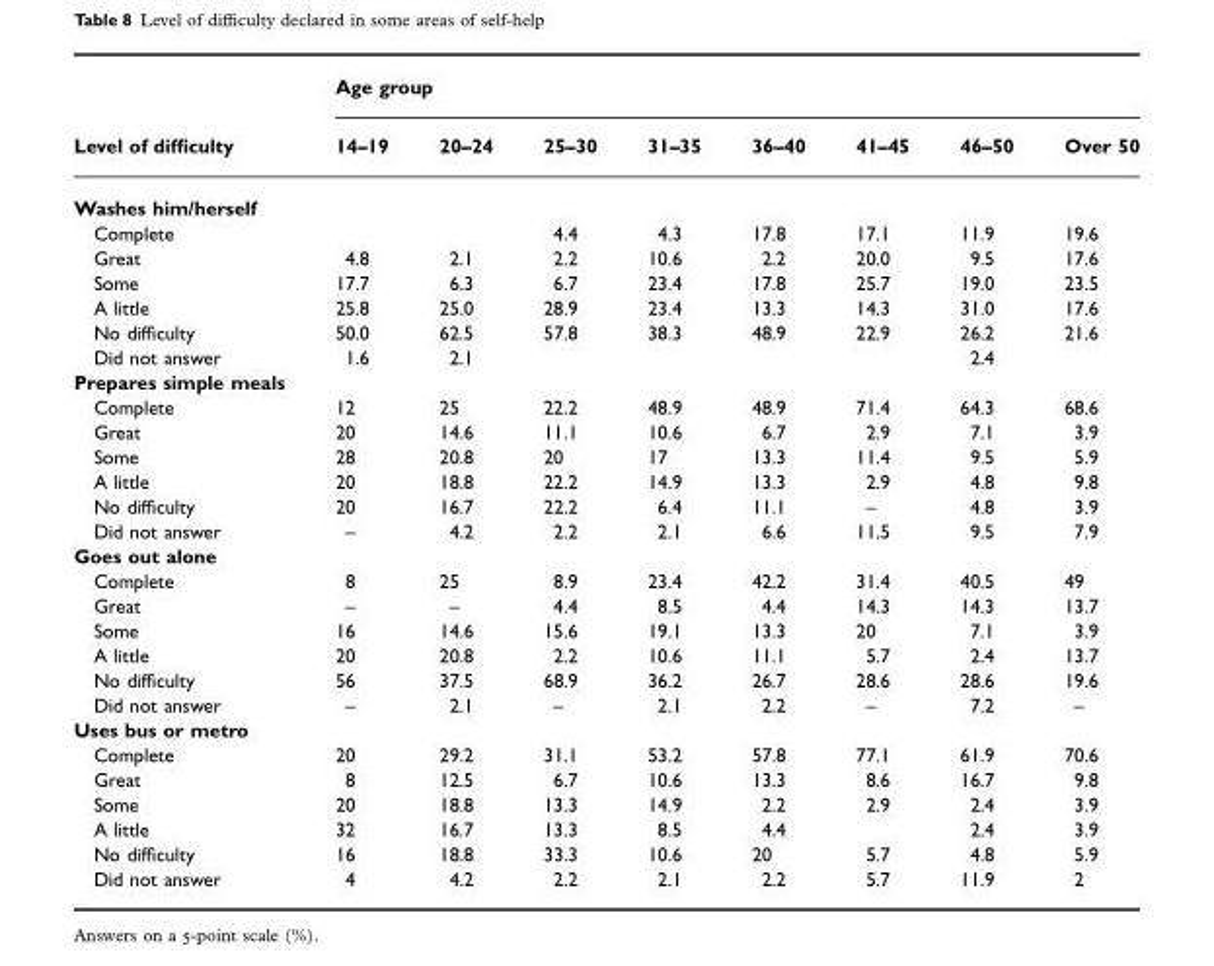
<table><thead><tr><td rowspan="2">Level of difficulty</td><td colspan="8">Age group</td></tr><tr><td>14–19</td><td>20–24</td><td>25–30</td><td>31–35</td><td>36–40</td><td>41–45</td><td>46–50</td><td>Over 50</td></tr></thead><tbody><tr><td colspan="9">Washes him/herself</td></tr><tr><td>Complete</td><td></td><td></td><td>4.4</td><td>4.3</td><td>17.8</td><td>17.1</td><td>11.9</td><td>19.6</td></tr><tr><td>Great</td><td>4.8</td><td>2.1</td><td>2.2</td><td>10.6</td><td>2.2</td><td>20.0</td><td>9.5</td><td>17.6</td></tr><tr><td>Some</td><td>17.7</td><td>6.3</td><td>6.7</td><td>23.4</td><td>17.8</td><td>25.7</td><td>19.0</td><td>23.5</td></tr><tr><td>A little</td><td>25.8</td><td>25.0</td><td>28.9</td><td>23.4</td><td>13.3</td><td>14.3</td><td>31.0</td><td>17.6</td></tr><tr><td>No difficulty</td><td>50.0</td><td>62.5</td><td>57.8</td><td>38.3</td><td>48.9</td><td>22.9</td><td>26.2</td><td>21.6</td></tr><tr><td>Did not answer</td><td>1.6</td><td>2.1</td><td></td><td></td><td></td><td></td><td>2.4</td><td></td></tr><tr><td colspan="9">Prepares simple meals</td></tr><tr><td>Complete</td><td>12</td><td>25</td><td>22.2</td><td>48.9</td><td>48.9</td><td>71.4</td><td>64.3</td><td>68.6</td></tr><tr><td>Great</td><td>20</td><td>14.6</td><td>11.1</td><td>10.6</td><td>6.7</td><td>2.9</td><td>7.1</td><td>3.9</td></tr><tr><td>Some</td><td>28</td><td>20.8</td><td>20</td><td>17</td><td>13.3</td><td>11.4</td><td>9.5</td><td>5.9</td></tr><tr><td>A little</td><td>20</td><td>18.8</td><td>22.2</td><td>14.9</td><td>13.3</td><td>2.9</td><td>4.8</td><td>9.8</td></tr><tr><td>No difficulty</td><td>20</td><td>16.7</td><td>22.2</td><td>6.4</td><td>11.1</td><td>–</td><td>4.8</td><td>3.9</td></tr><tr><td>Did not answer</td><td>–</td><td>4.2</td><td>2.2</td><td>2.1</td><td>6.6</td><td>11.5</td><td>9.5</td><td>7.9</td></tr><tr><td colspan="9">Goes out alone</td></tr><tr><td>Complete</td><td>8</td><td>25</td><td>8.9</td><td>23.4</td><td>42.2</td><td>31.4</td><td>40.5</td><td>49</td></tr><tr><td>Great</td><td>–</td><td>–</td><td>4.4</td><td>8.5</td><td>4.4</td><td>14.3</td><td>14.3</td><td>13.7</td></tr><tr><td>Some</td><td>16</td><td>14.6</td><td>15.6</td><td>19.1</td><td>13.3</td><td>20</td><td>7.1</td><td>3.9</td></tr><tr><td>A little</td><td>20</td><td>20.8</td><td>2.2</td><td>10.6</td><td>11.1</td><td>5.7</td><td>2.4</td><td>13.7</td></tr><tr><td>No difficulty</td><td>56</td><td>37.5</td><td>68.9</td><td>36.2</td><td>26.7</td><td>28.6</td><td>28.6</td><td>19.6</td></tr><tr><td>Did not answer</td><td>–</td><td>2.1</td><td>–</td><td>2.1</td><td>2.2</td><td>–</td><td>7.2</td><td>–</td></tr><tr><td colspan="9">Uses bus or metro</td></tr><tr><td>Complete</td><td>20</td><td>29.2</td><td>31.1</td><td>53.2</td><td>57.8</td><td>77.1</td><td>61.9</td><td>70.6</td></tr><tr><td>Great</td><td>8</td><td>12.5</td><td>6.7</td><td>10.6</td><td>13.3</td><td>8.6</td><td>16.7</td><td>9.8</td></tr><tr><td>Some</td><td>20</td><td>18.8</td><td>13.3</td><td>14.9</td><td>2.2</td><td>2.9</td><td>2.4</td><td>3.9</td></tr><tr><td>A little</td><td>32</td><td>16.7</td><td>13.3</td><td>8.5</td><td>4.4</td><td></td><td>2.4</td><td>3.9</td></tr><tr><td>No difficulty</td><td>16</td><td>18.8</td><td>33.3</td><td>10.6</td><td>20</td><td>5.7</td><td>4.8</td><td>5.9</td></tr><tr><td>Did not answer</td><td>4</td><td>4.2</td><td>2.2</td><td>2.1</td><td>2.2</td><td>5.7</td><td>11.9</td><td>2</td></tr></tbody></table>